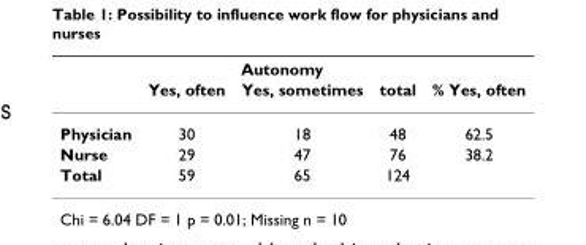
<table><thead><tr><td rowspan="2"></td><td colspan="3">Autonomy</td><td rowspan="2">% Yes, often</td></tr><tr><td>Yes, often</td><td>Yes, sometimes</td><td>total</td></tr></thead><tbody><tr><td>Physician</td><td>30</td><td>18</td><td>48</td><td>62.5</td></tr><tr><td>Nurse</td><td>29</td><td>47</td><td>76</td><td>38.2</td></tr><tr><td>Total</td><td>59</td><td>65</td><td>124</td><td></td></tr></tbody></table>